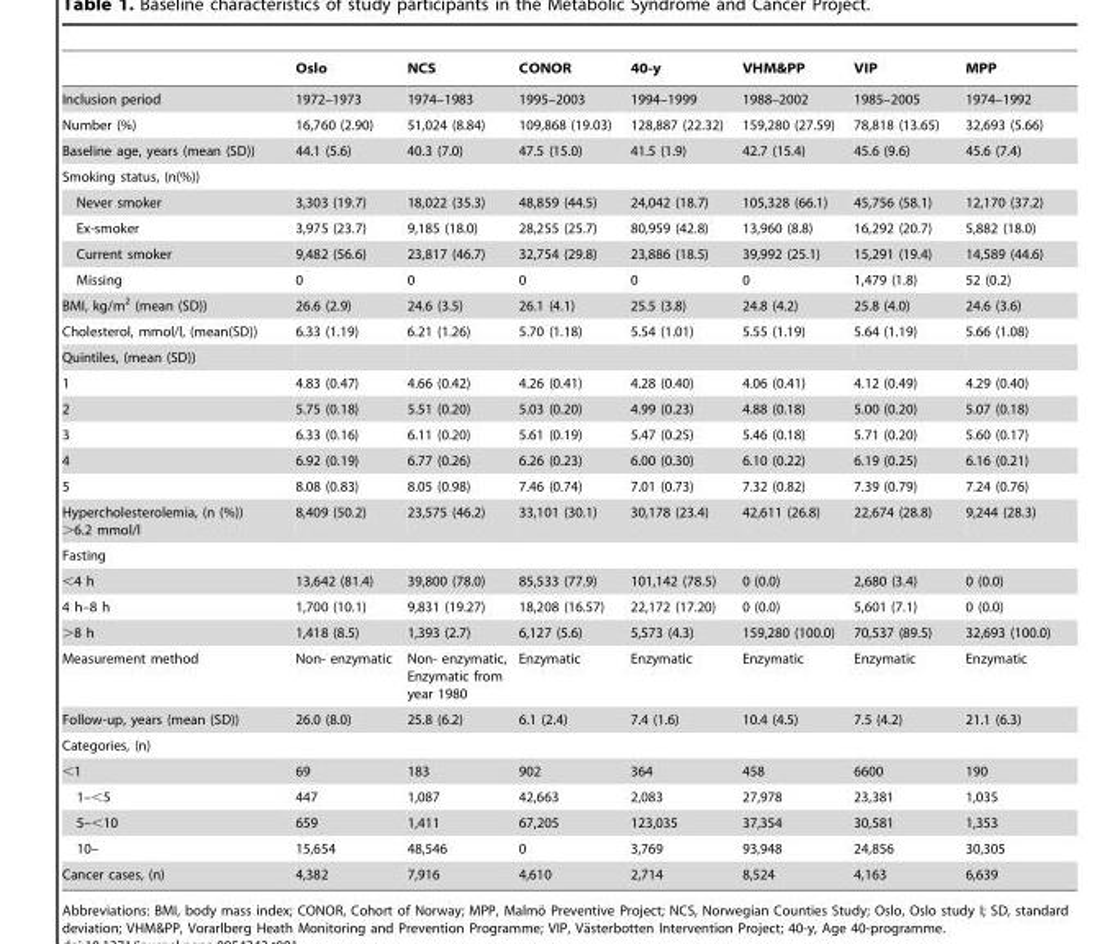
<table><thead><tr><td></td><td>Oslo</td><td>NCS</td><td>CONOR</td><td>40-y</td><td>VHM&amp;PP</td><td>VIP</td><td>MPP</td></tr></thead><tbody><tr><td>Inclusion period</td><td>1972–1973</td><td>1974–1983</td><td>1995–2003</td><td>1994–1999</td><td>1988–2002</td><td>1985–2005</td><td>1974–1992</td></tr><tr><td>Number (%)</td><td>16,760 (2.90)</td><td>51,024 (8.84)</td><td>109,868 (19.03)</td><td>128,887 (22.32)</td><td>159,280 (27.59)</td><td>78,818 (13.65)</td><td>32,693 (5.66)</td></tr><tr><td>Baseline age, years (mean (SD))</td><td>44.1 (5.6)</td><td>40.3 (7.0)</td><td>47.5 (15.0)</td><td>41.5 (1.9)</td><td>42.7 (15.4)</td><td>45.6 (9.6)</td><td>45.6 (7.4)</td></tr><tr><td colspan="8">Smoking status, (n(%))</td></tr><tr><td>Never smoker</td><td>3,303 (19.7)</td><td>18,022 (35.3)</td><td>48,859 (44.5)</td><td>24,042 (18.7)</td><td>105,328 (66.1)</td><td>45,756 (58.1)</td><td>12,170 (37.2)</td></tr><tr><td>Ex-smoker</td><td>3,975 (23.7)</td><td>9,185 (18.0)</td><td>28,255 (25.7)</td><td>80,959 (42.8)</td><td>13,960 (8.8)</td><td>16,292 (20.7)</td><td>5,882 (18.0)</td></tr><tr><td>Current smoker</td><td>9,482 (56.6)</td><td>23,817 (46.7)</td><td>32,754 (29.8)</td><td>23,886 (18.5)</td><td>39,992 (25.1)</td><td>15,291 (19.4)</td><td>14,589 (44.6)</td></tr><tr><td>Missing</td><td>0</td><td>0</td><td>0</td><td>0</td><td>0</td><td>1,479 (1.8)</td><td>52 (0.2)</td></tr><tr><td>BMI, kg/m<sup>2</sup> (mean (SD))</td><td>26.6 (2.9)</td><td>24.6 (3.5)</td><td>26.1 (4.1)</td><td>25.5 (3.8)</td><td>24.8 (4.2)</td><td>25.8 (4.0)</td><td>24.6 (3.6)</td></tr><tr><td>Cholesterol, mmol/l, (mean(SD))</td><td>6.33 (1.19)</td><td>6.21 (1.26)</td><td>5.70 (1.18)</td><td>5.54 (1.01)</td><td>5.55 (1.19)</td><td>5.64 (1.19)</td><td>5.66 (1.08)</td></tr><tr><td colspan="8">Quintiles, (mean (SD))</td></tr><tr><td>1</td><td>4.83 (0.47)</td><td>4.66 (0.42)</td><td>4.26 (0.41)</td><td>4.28 (0.40)</td><td>4.06 (0.41)</td><td>4.12 (0.49)</td><td>4.29 (0.40)</td></tr><tr><td>2</td><td>5.75 (0.18)</td><td>5.51 (0.20)</td><td>5.03 (0.20)</td><td>4.99 (0.23)</td><td>4.88 (0.18)</td><td>5.00 (0.20)</td><td>5.07 (0.18)</td></tr><tr><td>3</td><td>6.33 (0.16)</td><td>6.11 (0.20)</td><td>5.61 (0.19)</td><td>5.47 (0.25)</td><td>5.46 (0.18)</td><td>5.71 (0.20)</td><td>5.60 (0.17)</td></tr><tr><td>4</td><td>6.92 (0.19)</td><td>6.77 (0.26)</td><td>6.26 (0.23)</td><td>6.00 (0.30)</td><td>6.10 (0.22)</td><td>6.19 (0.25)</td><td>6.16 (0.21)</td></tr><tr><td>5</td><td>8.08 (0.83)</td><td>8.05 (0.98)</td><td>7.46 (0.74)</td><td>7.01 (0.73)</td><td>7.32 (0.82)</td><td>7.39 (0.79)</td><td>7.24 (0.76)</td></tr><tr><td>Hypercholesterolemia, (n (%)) &gt;6.2 mmol/l</td><td>8,409 (50.2)</td><td>23,575 (46.2)</td><td>33,101 (30.1)</td><td>30,178 (23.4)</td><td>42,611 (26.8)</td><td>22,674 (28.8)</td><td>9,244 (28.3)</td></tr><tr><td colspan="8">Fasting</td></tr><tr><td>&lt;4 h</td><td>13,642 (81.4)</td><td>39,800 (78.0)</td><td>85,533 (77.9)</td><td>101,142 (78.5)</td><td>0 (0.0)</td><td>2,680 (3.4)</td><td>0 (0.0)</td></tr><tr><td>4 h–8 h</td><td>1,700 (10.1)</td><td>9,831 (19.27)</td><td>18,208 (16.57)</td><td>22,172 (17.20)</td><td>0 (0.0)</td><td>5,601 (7.1)</td><td>0 (0.0)</td></tr><tr><td>&gt;8 h</td><td>1,418 (8.5)</td><td>1,393 (2.7)</td><td>6,127 (5.6)</td><td>5,573 (4.3)</td><td>159,280 (100.0)</td><td>70,537 (89.5)</td><td>32,693 (100.0)</td></tr><tr><td>Measurement method</td><td>Non- enzymatic</td><td>Non- enzymatic, Enzymatic from year 1980</td><td>Enzymatic</td><td>Enzymatic</td><td>Enzymatic</td><td>Enzymatic</td><td>Enzymatic</td></tr><tr><td>Follow-up, years (mean (SD))</td><td>26.0 (8.0)</td><td>25.8 (6.2)</td><td>6.1 (2.4)</td><td>7.4 (1.6)</td><td>10.4 (4.5)</td><td>7.5 (4.2)</td><td>21.1 (6.3)</td></tr><tr><td colspan="8">Categories, (n)</td></tr><tr><td>&lt;1</td><td>69</td><td>183</td><td>902</td><td>364</td><td>458</td><td>6600</td><td>190</td></tr><tr><td>1–&lt;5</td><td>447</td><td>1,087</td><td>42,663</td><td>2,083</td><td>27,978</td><td>23,381</td><td>1,035</td></tr><tr><td>5–&lt;10</td><td>659</td><td>1,411</td><td>67,205</td><td>123,035</td><td>37,354</td><td>30,581</td><td>1,353</td></tr><tr><td>10–</td><td>15,654</td><td>48,546</td><td>0</td><td>3,769</td><td>93,948</td><td>24,856</td><td>30,305</td></tr><tr><td>Cancer cases, (n)</td><td>4,382</td><td>7,916</td><td>4,610</td><td>2,714</td><td>8,524</td><td>4,163</td><td>6,639</td></tr></tbody></table>